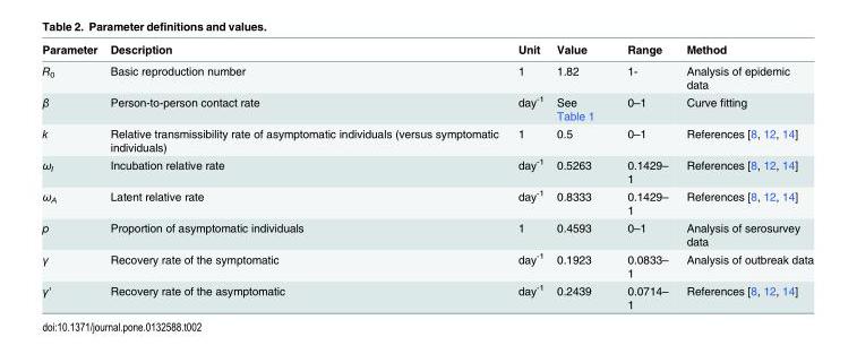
<table><thead><tr><td>Parameter</td><td>Description</td><td>Unit</td><td>Value</td><td>Range</td><td>Method</td></tr></thead><tbody><tr><td>R<sub>0</sub></td><td>Basic reproduction number</td><td>1</td><td>1.82</td><td>1-</td><td>Analysis of epidemic data</td></tr><tr><td>β</td><td>Person-to-person contact rate</td><td>day<sup>-1</sup></td><td>See Table 1</td><td>0–1</td><td>Curve fitting</td></tr><tr><td>k</td><td>Relative transmissibility rate of asymptomatic individuals (versus symptomatic individuals)</td><td>1</td><td>0.5</td><td>0–1</td><td>References [8, 12, 14]</td></tr><tr><td>ω<sub>I</sub></td><td>Incubation relative rate</td><td>day<sup>-1</sup></td><td>0.5263</td><td>0.1429– 1</td><td>References [8, 12, 14]</td></tr><tr><td>ω<sub>A</sub></td><td>Latent relative rate</td><td>day<sup>-1</sup></td><td>0.8333</td><td>0.1429– 1</td><td>References [8, 12, 14]</td></tr><tr><td>p</td><td>Proportion of asymptomatic individuals</td><td>1</td><td>0.4593</td><td>0–1</td><td>Analysis of serosurvey data</td></tr><tr><td>γ</td><td>Recovery rate of the symptomatic</td><td>day<sup>-1</sup></td><td>0.1923</td><td>0.0833– 1</td><td>Analysis of outbreak data</td></tr><tr><td>γ&#x27;</td><td>Recovery rate of the asymptomatic</td><td>day<sup>-1</sup></td><td>0.2439</td><td>0.0714– 1</td><td>References [8, 12, 14]</td></tr></tbody></table>